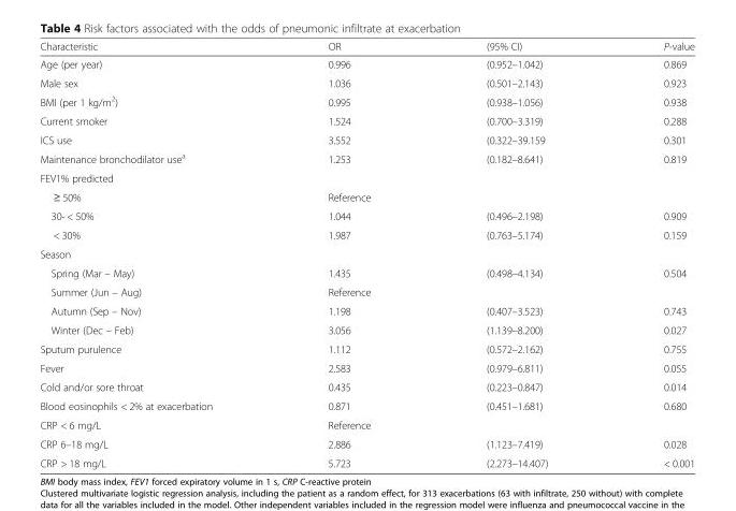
<table><thead><tr><td>Characteristic</td><td>OR</td><td>(95% CI)</td><td>P-value</td></tr></thead><tbody><tr><td>Age (per year)</td><td>0.996</td><td>(0.952–1.042)</td><td>0.869</td></tr><tr><td>Male sex</td><td>1.036</td><td>(0.501–2.143)</td><td>0.923</td></tr><tr><td>BMI (per 1 kg/m<sup>2</sup>)</td><td>0.995</td><td>(0.938–1.056)</td><td>0.938</td></tr><tr><td>Current smoker</td><td>1.524</td><td>(0.700–3.319)</td><td>0.288</td></tr><tr><td>ICS use</td><td>3.552</td><td>(0.322–39.159</td><td>0.301</td></tr><tr><td>Maintenance bronchodilator use<sup>a</sup></td><td>1.253</td><td>(0.182–8.641)</td><td>0.819</td></tr><tr><td colspan="4">FEV1% predicted</td></tr><tr><td>≥ 50%</td><td>Reference</td><td></td><td></td></tr><tr><td>30- &lt; 50%</td><td>1.044</td><td>(0.496–2.198)</td><td>0.909</td></tr><tr><td>&lt; 30%</td><td>1.987</td><td>(0.763–5.174)</td><td>0.159</td></tr><tr><td colspan="4">Season</td></tr><tr><td>Spring (Mar – May)</td><td>1.435</td><td>(0.498–4.134)</td><td>0.504</td></tr><tr><td>Summer (Jun – Aug)</td><td>Reference</td><td></td><td></td></tr><tr><td>Autumn (Sep – Nov)</td><td>1.198</td><td>(0.407–3.523)</td><td>0.743</td></tr><tr><td>Winter (Dec – Feb)</td><td>3.056</td><td>(1.139–8.200)</td><td>0.027</td></tr><tr><td>Sputum purulence</td><td>1.112</td><td>(0.572–2.162)</td><td>0.755</td></tr><tr><td>Fever</td><td>2.583</td><td>(0.979–6.811)</td><td>0.055</td></tr><tr><td>Cold and/or sore throat</td><td>0.435</td><td>(0.223–0.847)</td><td>0.014</td></tr><tr><td>Blood eosinophils &lt; 2% at exacerbation</td><td>0.871</td><td>(0.451–1.681)</td><td>0.680</td></tr><tr><td>CRP &lt; 6 mg/L</td><td>Reference</td><td></td><td></td></tr><tr><td>CRP 6–18 mg/L</td><td>2.886</td><td>(1.123–7.419)</td><td>0.028</td></tr><tr><td>CRP &gt; 18 mg/L</td><td>5.723</td><td>(2.273–14.407)</td><td>&lt; 0.001</td></tr></tbody></table>